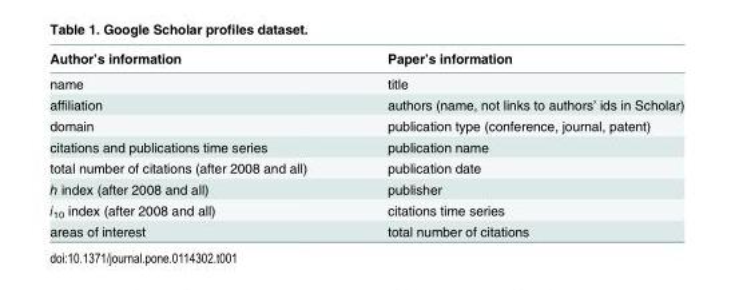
<table><thead><tr><td>Author’s information</td><td>Paper’s information</td></tr></thead><tbody><tr><td>name</td><td>title</td></tr><tr><td>affiliation</td><td>authors (name, not links to authors’ ids in Scholar)</td></tr><tr><td>domain</td><td>publication type (conference, journal, patent)</td></tr><tr><td>citations and publications time series</td><td>publication name</td></tr><tr><td>total number of citations (after 2008 and all)</td><td>publication date</td></tr><tr><td>h index (after 2008 and all)</td><td>publisher</td></tr><tr><td>i<sub>10</sub> index (after 2008 and all)</td><td>citations time series</td></tr><tr><td>areas of interest</td><td>total number of citations</td></tr></tbody></table>